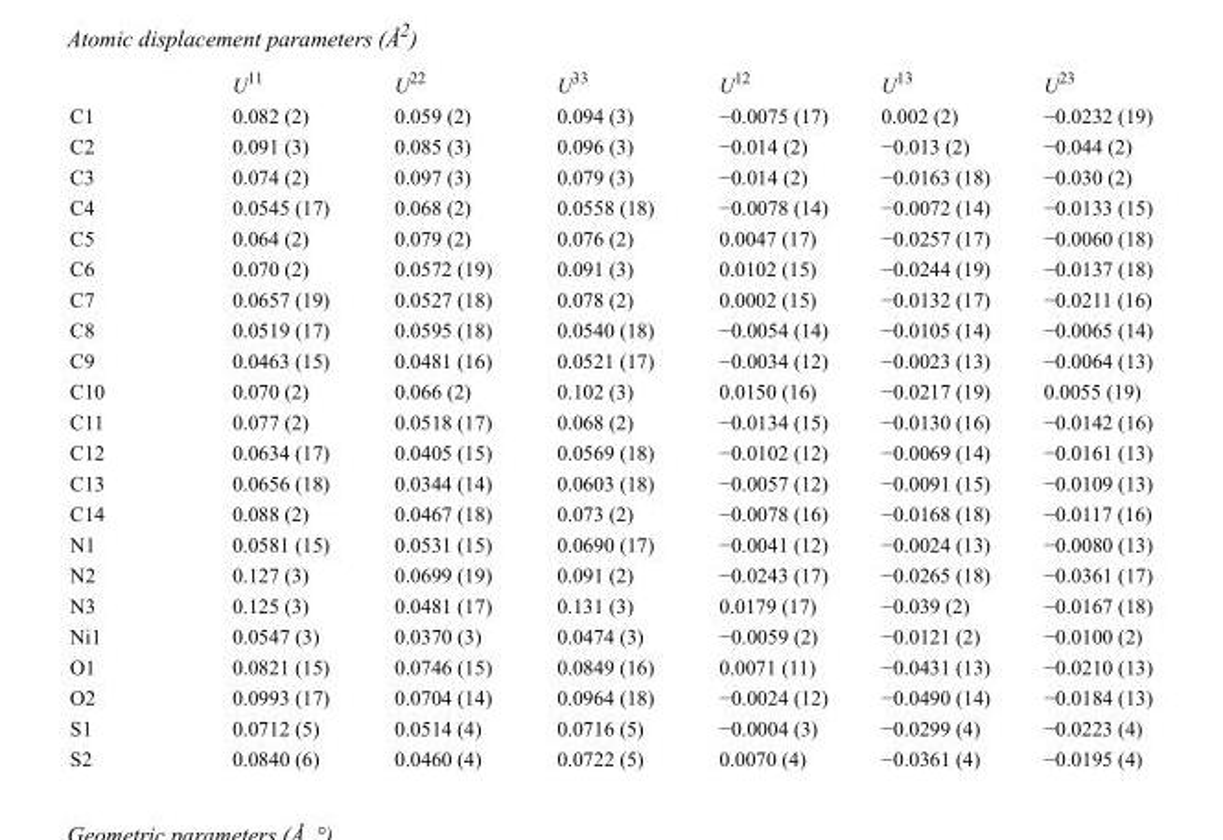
<table><thead><tr><td></td><td>U<sup>11</sup></td><td>U<sup>22</sup></td><td>U<sup>33</sup></td><td>U<sup>12</sup></td><td>U<sup>13</sup></td><td>U<sup>23</sup></td></tr></thead><tbody><tr><td>C1</td><td>0.082 (2)</td><td>0.059 (2)</td><td>0.094 (3)</td><td>−0.0075 (17)</td><td>0.002 (2)</td><td>−0.0232 (19)</td></tr><tr><td>C2</td><td>0.091 (3)</td><td>0.085 (3)</td><td>0.096 (3)</td><td>−0.014 (2)</td><td>−0.013 (2)</td><td>−0.044 (2)</td></tr><tr><td>C3</td><td>0.074 (2)</td><td>0.097 (3)</td><td>0.079 (3)</td><td>−0.014 (2)</td><td>−0.0163 (18)</td><td>−0.030 (2)</td></tr><tr><td>C4</td><td>0.0545 (17)</td><td>0.068 (2)</td><td>0.0558 (18)</td><td>−0.0078 (14)</td><td>−0.0072 (14)</td><td>−0.0133 (15)</td></tr><tr><td>C5</td><td>0.064 (2)</td><td>0.079 (2)</td><td>0.076 (2)</td><td>0.0047 (17)</td><td>−0.0257 (17)</td><td>−0.0060 (18)</td></tr><tr><td>C6</td><td>0.070 (2)</td><td>0.0572 (19)</td><td>0.091 (3)</td><td>0.0102 (15)</td><td>−0.0244 (19)</td><td>−0.0137 (18)</td></tr><tr><td>C7</td><td>0.0657 (19)</td><td>0.0527 (18)</td><td>0.078 (2)</td><td>0.0002 (15)</td><td>−0.0132 (17)</td><td>−0.0211 (16)</td></tr><tr><td>C8</td><td>0.0519 (17)</td><td>0.0595 (18)</td><td>0.0540 (18)</td><td>−0.0054 (14)</td><td>−0.0105 (14)</td><td>−0.0065 (14)</td></tr><tr><td>C9</td><td>0.0463 (15)</td><td>0.0481 (16)</td><td>0.0521 (17)</td><td>−0.0034 (12)</td><td>−0.0023 (13)</td><td>−0.0064 (13)</td></tr><tr><td>C10</td><td>0.070 (2)</td><td>0.066 (2)</td><td>0.102 (3)</td><td>0.0150 (16)</td><td>−0.0217 (19)</td><td>0.0055 (19)</td></tr><tr><td>C11</td><td>0.077 (2)</td><td>0.0518 (17)</td><td>0.068 (2)</td><td>−0.0134 (15)</td><td>−0.0130 (16)</td><td>−0.0142 (16)</td></tr><tr><td>C12</td><td>0.0634 (17)</td><td>0.0405 (15)</td><td>0.0569 (18)</td><td>−0.0102 (12)</td><td>−0.0069 (14)</td><td>−0.0161 (13)</td></tr><tr><td>C13</td><td>0.0656 (18)</td><td>0.0344 (14)</td><td>0.0603 (18)</td><td>−0.0057 (12)</td><td>−0.0091 (15)</td><td>−0.0109 (13)</td></tr><tr><td>C14</td><td>0.088 (2)</td><td>0.0467 (18)</td><td>0.073 (2)</td><td>−0.0078 (16)</td><td>−0.0168 (18)</td><td>−0.0117 (16)</td></tr><tr><td>N1</td><td>0.0581 (15)</td><td>0.0531 (15)</td><td>0.0690 (17)</td><td>−0.0041 (12)</td><td>−0.0024 (13)</td><td>−0.0080 (13)</td></tr><tr><td>N2</td><td>0.127 (3)</td><td>0.0699 (19)</td><td>0.091 (2)</td><td>−0.0243 (17)</td><td>−0.0265 (18)</td><td>−0.0361 (17)</td></tr><tr><td>N3</td><td>0.125 (3)</td><td>0.0481 (17)</td><td>0.131 (3)</td><td>0.0179 (17)</td><td>−0.039 (2)</td><td>−0.0167 (18)</td></tr><tr><td>Ni1</td><td>0.0547 (3)</td><td>0.0370 (3)</td><td>0.0474 (3)</td><td>−0.0059 (2)</td><td>−0.0121 (2)</td><td>−0.0100 (2)</td></tr><tr><td>O1</td><td>0.0821 (15)</td><td>0.0746 (15)</td><td>0.0849 (16)</td><td>0.0071 (11)</td><td>−0.0431 (13)</td><td>−0.0210 (13)</td></tr><tr><td>O2</td><td>0.0993 (17)</td><td>0.0704 (14)</td><td>0.0964 (18)</td><td>−0.0024 (12)</td><td>−0.0490 (14)</td><td>−0.0184 (13)</td></tr><tr><td>S1</td><td>0.0712 (5)</td><td>0.0514 (4)</td><td>0.0716 (5)</td><td>−0.0004 (3)</td><td>−0.0299 (4)</td><td>−0.0223 (4)</td></tr><tr><td>S2</td><td>0.0840 (6)</td><td>0.0460 (4)</td><td>0.0722 (5)</td><td>0.0070 (4)</td><td>−0.0361 (4)</td><td>−0.0195 (4)</td></tr></tbody></table>